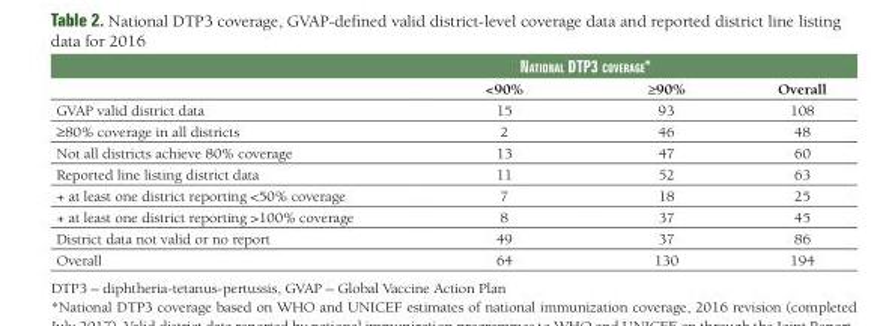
<table><thead><tr><td rowspan="2"></td><td colspan="2">NatioNal dtp3 Coverage*</td><td rowspan="2">Overall</td></tr><tr><td>&lt;90%</td><td>≥90%</td></tr></thead><tbody><tr><td>GVAP valid district data</td><td>15</td><td>93</td><td>108</td></tr><tr><td>≥80% coverage in all districts</td><td>2</td><td>46</td><td>48</td></tr><tr><td>Not all districts achieve 80% coverage</td><td>13</td><td>47</td><td>60</td></tr><tr><td>Reported line listing district data</td><td>11</td><td>52</td><td>63</td></tr><tr><td>+ at least one district reporting &lt;50% coverage</td><td>7</td><td>18</td><td>25</td></tr><tr><td>+ at least one district reporting &gt;100% coverage</td><td>8</td><td>37</td><td>45</td></tr><tr><td>District data not valid or no report</td><td>49</td><td>37</td><td>86</td></tr><tr><td>Overall</td><td>64</td><td>130</td><td>194</td></tr></tbody></table>